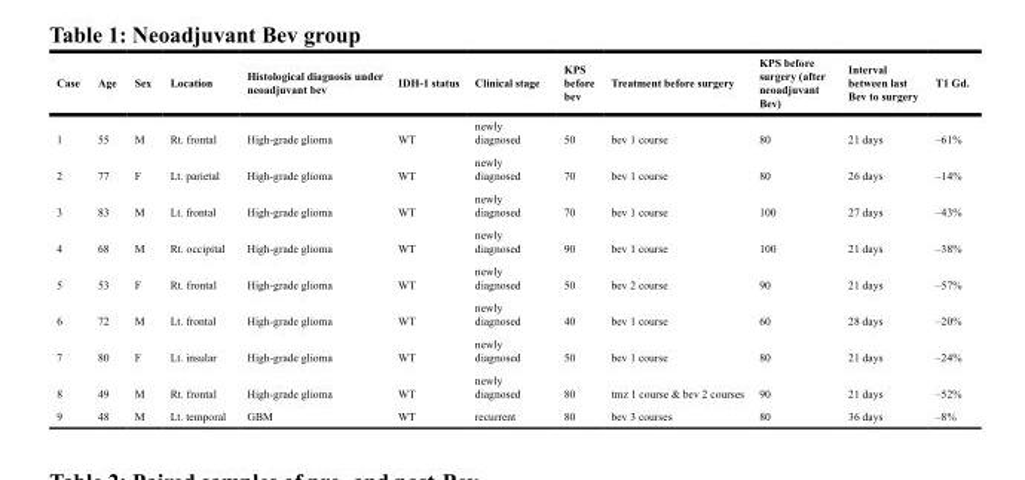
<table><thead><tr><td>Case</td><td>Age</td><td>Sex</td><td>Location</td><td>Histological diagnosis under neoadjuvant bev</td><td>IDH-1 status</td><td>Clinical stage</td><td>KPS before bev</td><td>Treatment before surgery</td><td>KPS before surgery (after neoadjuvant Bev)</td><td>Interval between last Bev to surgery</td><td>T1 Gd.</td></tr></thead><tbody><tr><td>1</td><td>55</td><td>M</td><td>Rt. frontal</td><td>High-grade glioma</td><td>WT</td><td>newly diagnosed</td><td>50</td><td>bev 1 course</td><td>80</td><td>21 days</td><td>–61%</td></tr><tr><td>2</td><td>77</td><td>F</td><td>Lt. parietal</td><td>High-grade glioma</td><td>WT</td><td>newly diagnosed</td><td>70</td><td>bev 1 course</td><td>80</td><td>26 days</td><td>–14%</td></tr><tr><td>3</td><td>83</td><td>M</td><td>Lt. frontal</td><td>High-grade glioma</td><td>WT</td><td>newly diagnosed</td><td>70</td><td>bev 1 course</td><td>100</td><td>27 days</td><td>–43%</td></tr><tr><td>4</td><td>68</td><td>M</td><td>Rt. occipital</td><td>High-grade glioma</td><td>WT</td><td>newly diagnosed</td><td>90</td><td>bev 1 course</td><td>100</td><td>21 days</td><td>–38%</td></tr><tr><td>5</td><td>53</td><td>F</td><td>Rt. frontal</td><td>High-grade glioma</td><td>WT</td><td>newly diagnosed</td><td>50</td><td>bev 2 course</td><td>90</td><td>21 days</td><td>–57%</td></tr><tr><td>6</td><td>72</td><td>M</td><td>Lt. frontal</td><td>High-grade glioma</td><td>WT</td><td>newly diagnosed</td><td>40</td><td>bev 1 course</td><td>60</td><td>28 days</td><td>–20%</td></tr><tr><td>7</td><td>80</td><td>F</td><td>Lt. insular</td><td>High-grade glioma</td><td>WT</td><td>newly diagnosed</td><td>50</td><td>bev 1 course</td><td>80</td><td>21 days</td><td>–24%</td></tr><tr><td>8</td><td>49</td><td>M</td><td>Rt. frontal</td><td>High-grade glioma</td><td>WT</td><td>newly diagnosed</td><td>80</td><td>tmz 1 course &amp; bev 2 courses</td><td>90</td><td>21 days</td><td>–52%</td></tr><tr><td>9</td><td>48</td><td>M</td><td>Lt. temporal</td><td>GBM</td><td>WT</td><td>recurrent</td><td>80</td><td>bev 3 courses</td><td>80</td><td>36 days</td><td>–8%</td></tr></tbody></table>